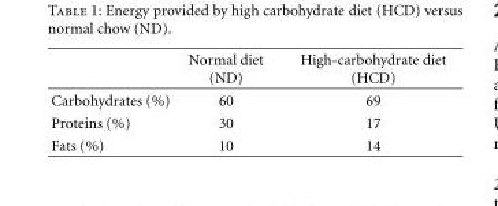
<table><thead><tr><td></td><td>Normal diet (ND)</td><td>High-carbohydrate diet (HCD)</td></tr></thead><tbody><tr><td>Carbohydrates (%)</td><td>60</td><td>69</td></tr><tr><td>Proteins (%)</td><td>30</td><td>17</td></tr><tr><td>Fats (%)</td><td>10</td><td>14</td></tr></tbody></table>